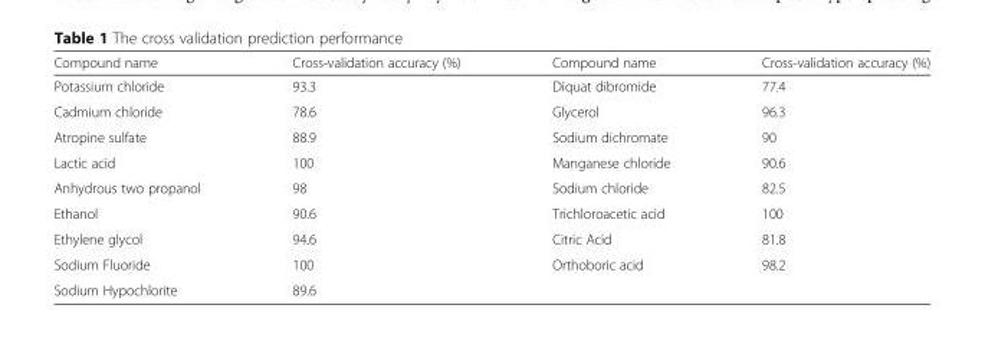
<table><thead><tr><td>Compound name</td><td>Cross-validation accuracy (%)</td><td>Compound name</td><td>Cross-validation accuracy (%)</td></tr></thead><tbody><tr><td>Potassium chloride</td><td>93.3</td><td>Diquat dibromide</td><td>77.4</td></tr><tr><td>Cadmium chloride</td><td>78.6</td><td>Glycerol</td><td>96.3</td></tr><tr><td>Atropine sulfate</td><td>88.9</td><td>Sodium dichromate</td><td>90</td></tr><tr><td>Lactic acid</td><td>100</td><td>Manganese chloride</td><td>90.6</td></tr><tr><td>Anhydrous two propanol</td><td>98</td><td>Sodium chloride</td><td>82.5</td></tr><tr><td>Ethanol</td><td>90.6</td><td>Trichloroacetic acid</td><td>100</td></tr><tr><td>Ethylene glycol</td><td>94.6</td><td>Citric Acid</td><td>81.8</td></tr><tr><td>Sodium Fluoride</td><td>100</td><td>Orthoboric acid</td><td>98.2</td></tr><tr><td>Sodium Hypochlorite</td><td>89.6</td><td></td><td></td></tr></tbody></table>